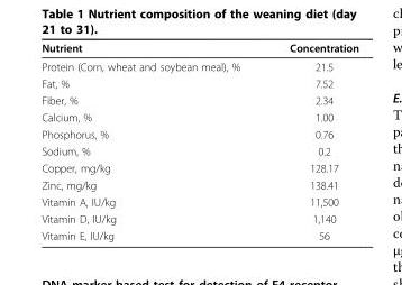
<table><thead><tr><td>Nutrient</td><td>Concentration</td></tr></thead><tbody><tr><td>Protein (Corn, wheat and soybean meal), %</td><td>21.5</td></tr><tr><td>Fat, %</td><td>7.52</td></tr><tr><td>Fiber, %</td><td>2.34</td></tr><tr><td>Calcium, %</td><td>1.00</td></tr><tr><td>Phosphorus, %</td><td>0.76</td></tr><tr><td>Sodium, %</td><td>0.2</td></tr><tr><td>Copper, mg/kg</td><td>128.17</td></tr><tr><td>Zinc, mg/kg</td><td>138.41</td></tr><tr><td>Vitamin A, IU/kg</td><td>11,500</td></tr><tr><td>Vitamin D, IU/kg</td><td>1,140</td></tr><tr><td>Vitamin E, IU/kg</td><td>56</td></tr></tbody></table>